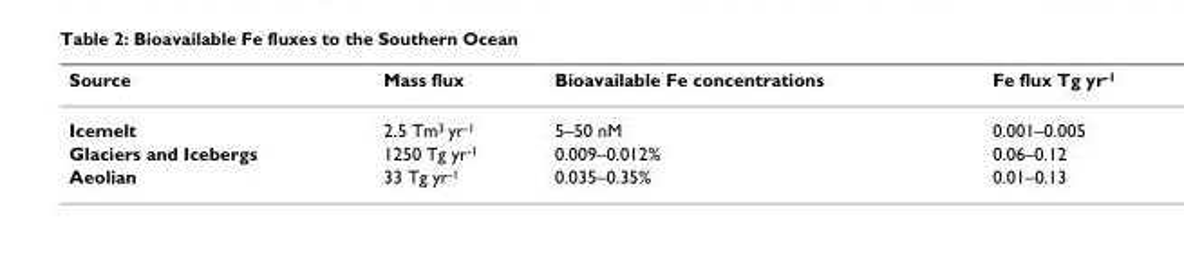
<table><thead><tr><td>Source</td><td>Mass flux</td><td>Bioavailable Fe concentrations</td><td>Fe flux Tg yr<sup>-1</sup></td></tr></thead><tbody><tr><td>Icemelt</td><td>2.5 Tm<sup>3</sup> yr<sup>-1</sup></td><td>5–50 nM</td><td>0.001–0.005</td></tr><tr><td>Glaciers and Icebergs</td><td>1250 Tg yr<sup>-1</sup></td><td>0.009–0.012%</td><td>0.06–0.12</td></tr><tr><td>Aeolian</td><td>33 Tg yr<sup>-1</sup></td><td>0.035–0.35%</td><td>0.01–0.13</td></tr></tbody></table>